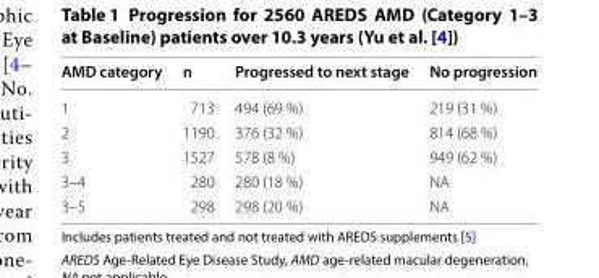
<table><thead><tr><td>AMD category</td><td>n</td><td>Progressed to next stage</td><td>No progression</td></tr></thead><tbody><tr><td>1</td><td>713</td><td>494 (69 %)</td><td>219 (31 %)</td></tr><tr><td>2</td><td>1190</td><td>376 (32 %)</td><td>814 (68 %)</td></tr><tr><td>3</td><td>1527</td><td>578 (8 %)</td><td>949 (62 %)</td></tr><tr><td>3–4</td><td>280</td><td>280 (18 %)</td><td>NA</td></tr><tr><td>3–5</td><td>298</td><td>298 (20 %)</td><td>NA</td></tr></tbody></table>